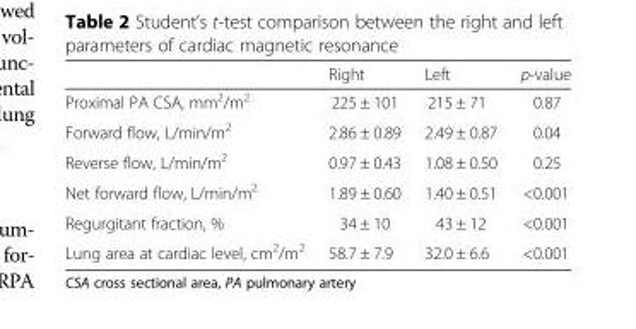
<table><thead><tr><td></td><td>Right</td><td>Left</td><td>p-value</td></tr></thead><tbody><tr><td>Proximal PA CSA, mm<sup>2</sup>/m<sup>2</sup></td><td>225 ± 101</td><td>215 ± 71</td><td>0.87</td></tr><tr><td>Forward flow, L/min/m<sup>2</sup></td><td>2.86 ± 0.89</td><td>2.49 ± 0.87</td><td>0.04</td></tr><tr><td>Reverse flow, L/min/m<sup>2</sup></td><td>0.97 ± 0.43</td><td>1.08 ± 0.50</td><td>0.25</td></tr><tr><td>Net forward flow, L/min/m<sup>2</sup></td><td>1.89 ± 0.60</td><td>1.40 ± 0.51</td><td>&lt;0.001</td></tr><tr><td>Regurgitant fraction, %</td><td>34 ± 10</td><td>43 ± 12</td><td>&lt;0.001</td></tr><tr><td>Lung area at cardiac level, cm<sup>2</sup>/m<sup>2</sup></td><td>58.7 ± 7.9</td><td>32.0 ± 6.6</td><td>&lt;0.001</td></tr></tbody></table>